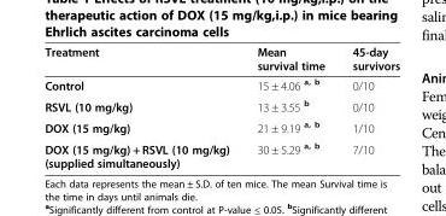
<table><thead><tr><td>Treatment</td><td>Mean survival time</td><td>45-day survivors</td></tr></thead><tbody><tr><td>Control</td><td>15 ± 4.06 <sup>a, b</sup></td><td>0/10</td></tr><tr><td>RSVL (10 mg/kg)</td><td>13 ± 3.55 <sup>b</sup></td><td>0/10</td></tr><tr><td>DOX (15 mg/kg)</td><td>21 ± 9.19 <sup>a, b</sup></td><td>1/10</td></tr><tr><td>DOX (15 mg/kg) + RSVL (10 mg/kg) (supplied simultaneously)</td><td>30 ± 5.29 <sup>a, b</sup></td><td>7/10</td></tr></tbody></table>